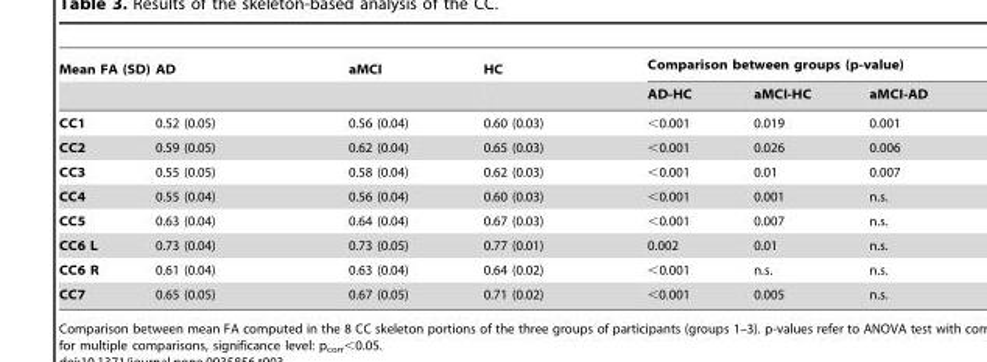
<table><thead><tr><td rowspan="2">Mean FA (SD)</td><td rowspan="2">AD</td><td rowspan="2">aMCI</td><td rowspan="2">HC</td><td colspan="3">Comparison between groups (p-value)</td></tr><tr><td>AD-HC</td><td>aMCI-HC</td><td>aMCI-AD</td></tr></thead><tbody><tr><td>CC1</td><td>0.52 (0.05)</td><td>0.56 (0.04)</td><td>0.60 (0.03)</td><td>&lt;0.001</td><td>0.019</td><td>0.001</td></tr><tr><td>CC2</td><td>0.59 (0.05)</td><td>0.62 (0.04)</td><td>0.65 (0.03)</td><td>&lt;0.001</td><td>0.026</td><td>0.006</td></tr><tr><td>CC3</td><td>0.55 (0.05)</td><td>0.58 (0.04)</td><td>0.62 (0.03)</td><td>&lt;0.001</td><td>0.01</td><td>0.007</td></tr><tr><td>CC4</td><td>0.55 (0.04)</td><td>0.56 (0.04)</td><td>0.60 (0.03)</td><td>&lt;0.001</td><td>0.001</td><td>n.s.</td></tr><tr><td>CC5</td><td>0.63 (0.04)</td><td>0.64 (0.04)</td><td>0.67 (0.03)</td><td>&lt;0.001</td><td>0.007</td><td>n.s.</td></tr><tr><td>CC6 L</td><td>0.73 (0.04)</td><td>0.73 (0.05)</td><td>0.77 (0.01)</td><td>0.002</td><td>0.01</td><td>n.s.</td></tr><tr><td>CC6 R</td><td>0.61 (0.04)</td><td>0.63 (0.04)</td><td>0.64 (0.02)</td><td>&lt;0.001</td><td>n.s.</td><td>n.s.</td></tr><tr><td>CC7</td><td>0.65 (0.05)</td><td>0.67 (0.05)</td><td>0.71 (0.02)</td><td>&lt;0.001</td><td>0.005</td><td>n.s.</td></tr></tbody></table>